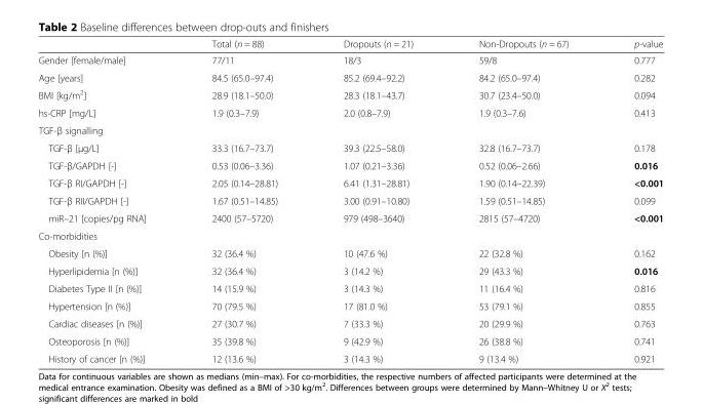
<table><thead><tr><td></td><td>Total (n = 88)</td><td>Dropouts (n = 21)</td><td>Non-Dropouts (n = 67)</td><td>p-value</td></tr></thead><tbody><tr><td>Gender [female/male]</td><td>77/11</td><td>18/3</td><td>59/8</td><td>0.777</td></tr><tr><td>Age [years]</td><td>84.5 (65.0–97.4)</td><td>85.2 (69.4–92.2)</td><td>84.2 (65.0–97.4)</td><td>0.282</td></tr><tr><td>BMI [kg/m<sup>2</sup>]</td><td>28.9 (18.1–50.0)</td><td>28.3 (18.1–43.7)</td><td>30.7 (23.4–50.0)</td><td>0.094</td></tr><tr><td>hs-CRP [mg/L]</td><td>1.9 (0.3–7.9)</td><td>2.0 (0.8–7.9)</td><td>1.9 (0.3–7.6)</td><td>0.413</td></tr><tr><td colspan="5">TGF-β signalling</td></tr><tr><td>TGF-β [μg/L]</td><td>33.3 (16.7–73.7)</td><td>39.3 (22.5–58.0)</td><td>32.8 (16.7–73.7)</td><td>0.178</td></tr><tr><td>TGF-β/GAPDH [-]</td><td>0.53 (0.06–3.36)</td><td>1.07 (0.21–3.36)</td><td>0.52 (0.06–2.66)</td><td>0.016</td></tr><tr><td>TGF-β RI/GAPDH [-]</td><td>2.05 (0.14–28.81)</td><td>6.41 (1.31–28.81)</td><td>1.90 (0.14–22.39)</td><td>&lt;0.001</td></tr><tr><td>TGF-β RII/GAPDH [-]</td><td>1.67 (0.51–14.85)</td><td>3.00 (0.91–10.80)</td><td>1.59 (0.51–14.85)</td><td>0.099</td></tr><tr><td>miR–21 [copies/pg RNA]</td><td>2400 (57–5720)</td><td>979 (498–3640)</td><td>2815 (57–4720)</td><td>&lt;0.001</td></tr><tr><td colspan="5">Co-morbidities</td></tr><tr><td>Obesity [n (%)]</td><td>32 (36.4 %)</td><td>10 (47.6 %)</td><td>22 (32.8 %)</td><td>0.162</td></tr><tr><td>Hyperlipidemia [n (%)]</td><td>32 (36.4 %)</td><td>3 (14.2 %)</td><td>29 (43.3 %)</td><td>0.016</td></tr><tr><td>Diabetes Type II [n (%)]</td><td>14 (15.9 %)</td><td>3 (14.3 %)</td><td>11 (16.4 %)</td><td>0.816</td></tr><tr><td>Hypertension [n (%)]</td><td>70 (79.5 %)</td><td>17 (81.0 %)</td><td>53 (79.1 %)</td><td>0.855</td></tr><tr><td>Cardiac diseases [n (%)]</td><td>27 (30.7 %)</td><td>7 (33.3 %)</td><td>20 (29.9 %)</td><td>0.763</td></tr><tr><td>Osteoporosis [n (%)]</td><td>35 (39.8 %)</td><td>9 (42.9 %)</td><td>26 (38.8 %)</td><td>0.741</td></tr><tr><td>History of cancer [n (%)]</td><td>12 (13.6 %)</td><td>3 (14.3 %)</td><td>9 (13.4 %)</td><td>0.921</td></tr></tbody></table>